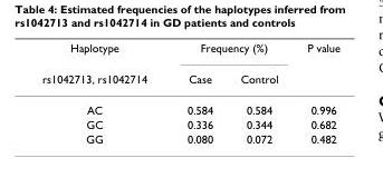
<table><thead><tr><td rowspan="2">Haplotype rs1042713, rs1042714</td><td colspan="2">Frequency (%)</td><td rowspan="2">P value</td></tr><tr><td>Case</td><td>Control</td></tr></thead><tbody><tr><td>AC</td><td>0.584</td><td>0.584</td><td>0.996</td></tr><tr><td>GC</td><td>0.336</td><td>0.344</td><td>0.682</td></tr><tr><td>GG</td><td>0.080</td><td>0.072</td><td>0.482</td></tr></tbody></table>